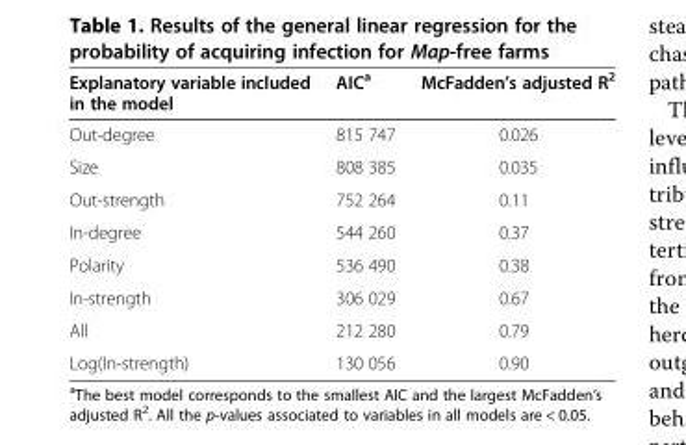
<table><thead><tr><td>Explanatory variable included in the model</td><td>AIC<sup>a</sup></td><td>McFadden’s adjusted R<sup>2</sup></td></tr></thead><tbody><tr><td>Out-degree</td><td>815 747</td><td>0.026</td></tr><tr><td>Size</td><td>808 385</td><td>0.035</td></tr><tr><td>Out-strength</td><td>752 264</td><td>0.11</td></tr><tr><td>In-degree</td><td>544 260</td><td>0.37</td></tr><tr><td>Polarity</td><td>536 490</td><td>0.38</td></tr><tr><td>In-strength</td><td>306 029</td><td>0.67</td></tr><tr><td>All</td><td>212 280</td><td>0.79</td></tr><tr><td>Log(In-strength)</td><td>130 056</td><td>0.90</td></tr></tbody></table>